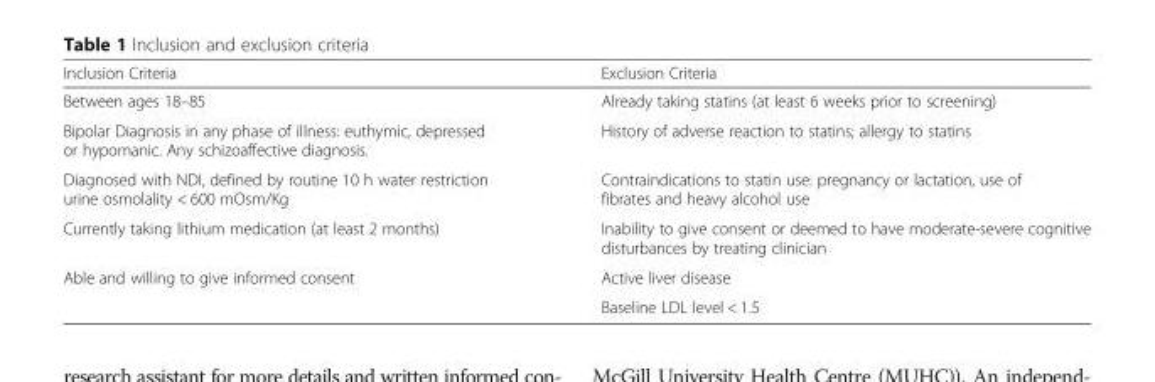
<table><thead><tr><td>Inclusion Criteria</td><td>Exclusion Criteria</td></tr></thead><tbody><tr><td>Between ages 18–85</td><td>Already taking statins (at least 6 weeks prior to screening)</td></tr><tr><td>Bipolar Diagnosis in any phase of illness: euthymic, depressed or hypomanic. Any schizoaffective diagnosis.</td><td>History of adverse reaction to statins; allergy to statins</td></tr><tr><td>Diagnosed with NDI, defined by routine 10 h water restriction urine osmolality &lt; 600 mOsm/Kg</td><td>Contraindications to statin use: pregnancy or lactation, use of fibrates and heavy alcohol use</td></tr><tr><td>Currently taking lithium medication (at least 2 months)</td><td>Inability to give consent or deemed to have moderate-severe cognitive disturbances by treating clinician</td></tr><tr><td rowspan="2">Able and willing to give informed consent</td><td>Active liver disease</td></tr><tr><td>Baseline LDL level &lt; 1.5</td></tr></tbody></table>